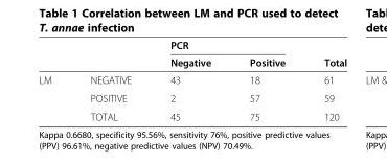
<table><thead><tr><td rowspan="2"></td><td rowspan="2"></td><td colspan="2">PCR</td><td rowspan="2">Total</td></tr><tr><td>Negative</td><td>Positive</td></tr></thead><tbody><tr><td rowspan="3">LM</td><td>NEGATIVE</td><td>43</td><td>18</td><td>61</td></tr><tr><td>POSITIVE</td><td>2</td><td>57</td><td>59</td></tr><tr><td>TOTAL</td><td>45</td><td>75</td><td>120</td></tr></tbody></table>